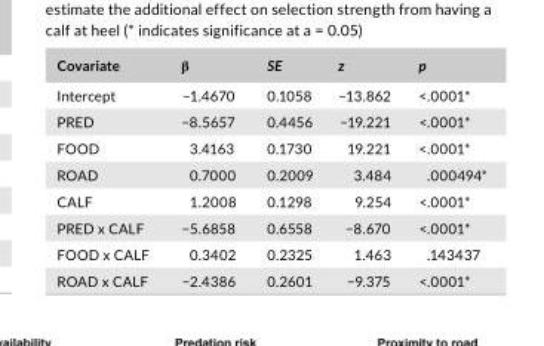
<table><thead><tr><td>Covariate</td><td>β</td><td>SE</td><td>z</td><td>p</td></tr></thead><tbody><tr><td>Intercept</td><td>−1.4670</td><td>0.1058</td><td>−13.862</td><td>&lt;.0001*</td></tr><tr><td>PRED</td><td>−8.5657</td><td>0.4456</td><td>−19.221</td><td>&lt;.0001*</td></tr><tr><td>FOOD</td><td>3.4163</td><td>0.1730</td><td>19.221</td><td>&lt;.0001*</td></tr><tr><td>ROAD</td><td>0.7000</td><td>0.2009</td><td>3.484</td><td>.000494*</td></tr><tr><td>CALF</td><td>1.2008</td><td>0.1298</td><td>9.254</td><td>&lt;.0001*</td></tr><tr><td>PRED x CALF</td><td>−5.6858</td><td>0.6558</td><td>−8.670</td><td>&lt;.0001*</td></tr><tr><td>FOOD x CALF</td><td>0.3402</td><td>0.2325</td><td>1.463</td><td>.143437</td></tr><tr><td>ROAD x CALF</td><td>−2.4386</td><td>0.2601</td><td>−9.375</td><td>&lt;.0001*</td></tr></tbody></table>